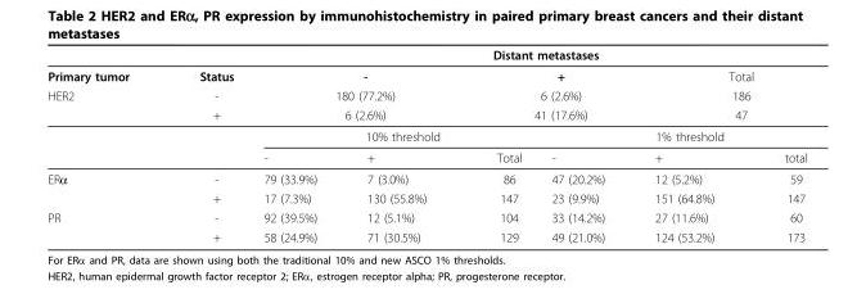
<table><thead><tr><td></td><td></td><td colspan="6">Distant metastases</td></tr></thead><tbody><tr><td>Primary tumor</td><td>Status</td><td colspan="2">-</td><td colspan="2">+</td><td colspan="2">Total</td></tr><tr><td rowspan="4">HER2</td><td>-</td><td colspan="2">180 (77.2%)</td><td colspan="2">6 (2.6%)</td><td colspan="2">186</td></tr><tr><td>+</td><td colspan="2">6 (2.6%)</td><td colspan="2">41 (17.6%)</td><td colspan="2">47</td></tr><tr><td></td><td colspan="3">10% threshold</td><td colspan="3">1% threshold</td></tr><tr><td></td><td>-</td><td>+</td><td>Total</td><td>-</td><td>+</td><td>total</td></tr><tr><td rowspan="2">ERα</td><td>-</td><td>79 (33.9%)</td><td>7 (3.0%)</td><td>86</td><td>47 (20.2%)</td><td>12 (5.2%)</td><td>59</td></tr><tr><td>+</td><td>17 (7.3%)</td><td>130 (55.8%)</td><td>147</td><td>23 (9.9%)</td><td>151 (64.8%)</td><td>147</td></tr><tr><td rowspan="2">PR</td><td>-</td><td>92 (39.5%)</td><td>12 (5.1%)</td><td>104</td><td>33 (14.2%)</td><td>27 (11.6%)</td><td>60</td></tr><tr><td>+</td><td>58 (24.9%)</td><td>71 (30.5%)</td><td>129</td><td>49 (21.0%)</td><td>124 (53.2%)</td><td>173</td></tr></tbody></table>